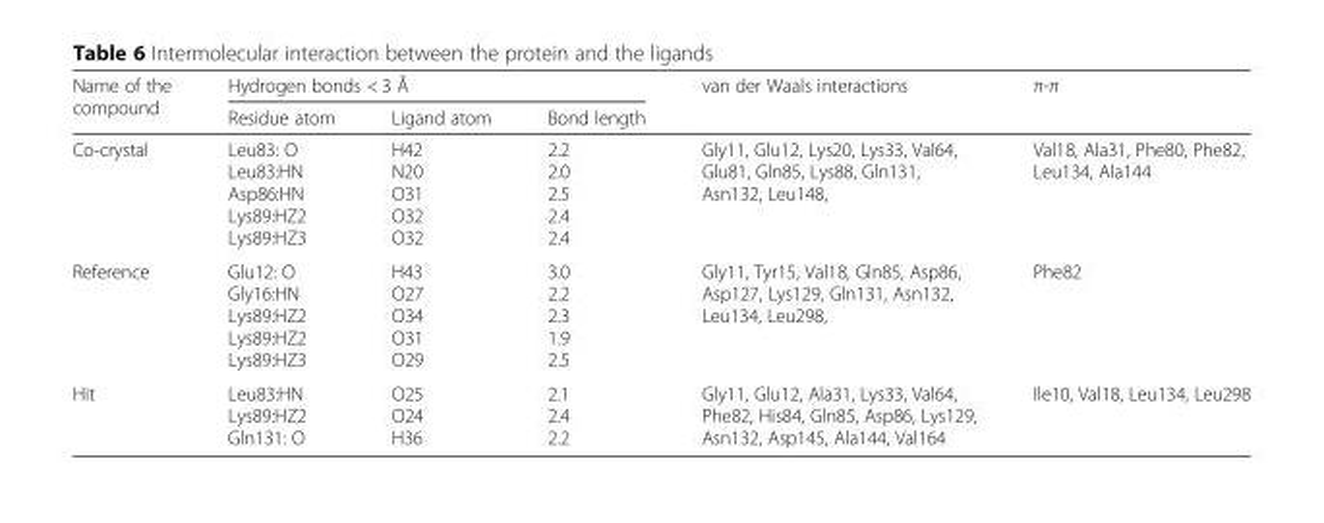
<table><thead><tr><td rowspan="2">Name of the compound</td><td colspan="3">Hydrogen bonds &lt; 3 Å</td><td rowspan="2">van der Waals interactions</td><td rowspan="2">π-π</td></tr><tr><td>Residue atom</td><td>Ligand atom</td><td>Bond length</td></tr></thead><tbody><tr><td>Co-crystal</td><td>Leu83: O Leu83:HN Asp86:HN Lys89:HZ2 Lys89:HZ3</td><td>H42 N20 O31 O32 O32</td><td>2.2 2.0 2.5 2.4 2.4</td><td>Gly11, Glu12, Lys20, Lys33, Val64, Glu81, Gln85, Lys88, Gln131, Asn132, Leu148,</td><td>Val18, Ala31, Phe80, Phe82, Leu134, Ala144</td></tr><tr><td>Reference</td><td>Glu12: O Gly16:HN Lys89:HZ2 Lys89:HZ2 Lys89:HZ3</td><td>H43 O27 O34 O31 O29</td><td>3.0 2.2 2.3 1.9 2.5</td><td>Gly11, Tyr15, Val18, Gln85, Asp86, Asp127, Lys129, Gln131, Asn132, Leu134, Leu298,</td><td>Phe82</td></tr><tr><td>Hit</td><td>Leu83:HN Lys89:HZ2 Gln131: O</td><td>O25 O24 H36</td><td>2.1 2.4 2.2</td><td>Gly11, Glu12, Ala31, Lys33, Val64, Phe82, His84, Gln85, Asp86, Lys129, Asn132, Asp145, Ala144, Val164</td><td>Ile10, Val18, Leu134, Leu298</td></tr></tbody></table>